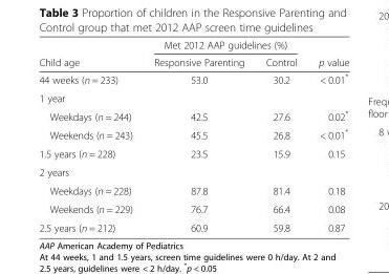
<table><thead><tr><td rowspan="2">Child age</td><td colspan="2">Met 2012 AAP guidelines (%)</td><td rowspan="2">p value</td></tr><tr><td>Responsive Parenting</td><td>Control</td></tr></thead><tbody><tr><td>44 weeks (n = 233)</td><td>53.0</td><td>30.2</td><td>&lt; 0.01*</td></tr><tr><td colspan="4">1 year</td></tr><tr><td>Weekdays (n = 244)</td><td>42.5</td><td>27.6</td><td>0.02*</td></tr><tr><td>Weekends (n = 243)</td><td>45.5</td><td>26.8</td><td>&lt; 0.01*</td></tr><tr><td>1.5 years (n = 228)</td><td>23.5</td><td>15.9</td><td>0.15</td></tr><tr><td colspan="4">2 years</td></tr><tr><td>Weekdays (n = 228)</td><td>87.8</td><td>81.4</td><td>0.18</td></tr><tr><td>Weekends (n = 229)</td><td>76.7</td><td>66.4</td><td>0.08</td></tr><tr><td>2.5 years (n = 212)</td><td>60.9</td><td>59.8</td><td>0.87</td></tr></tbody></table>